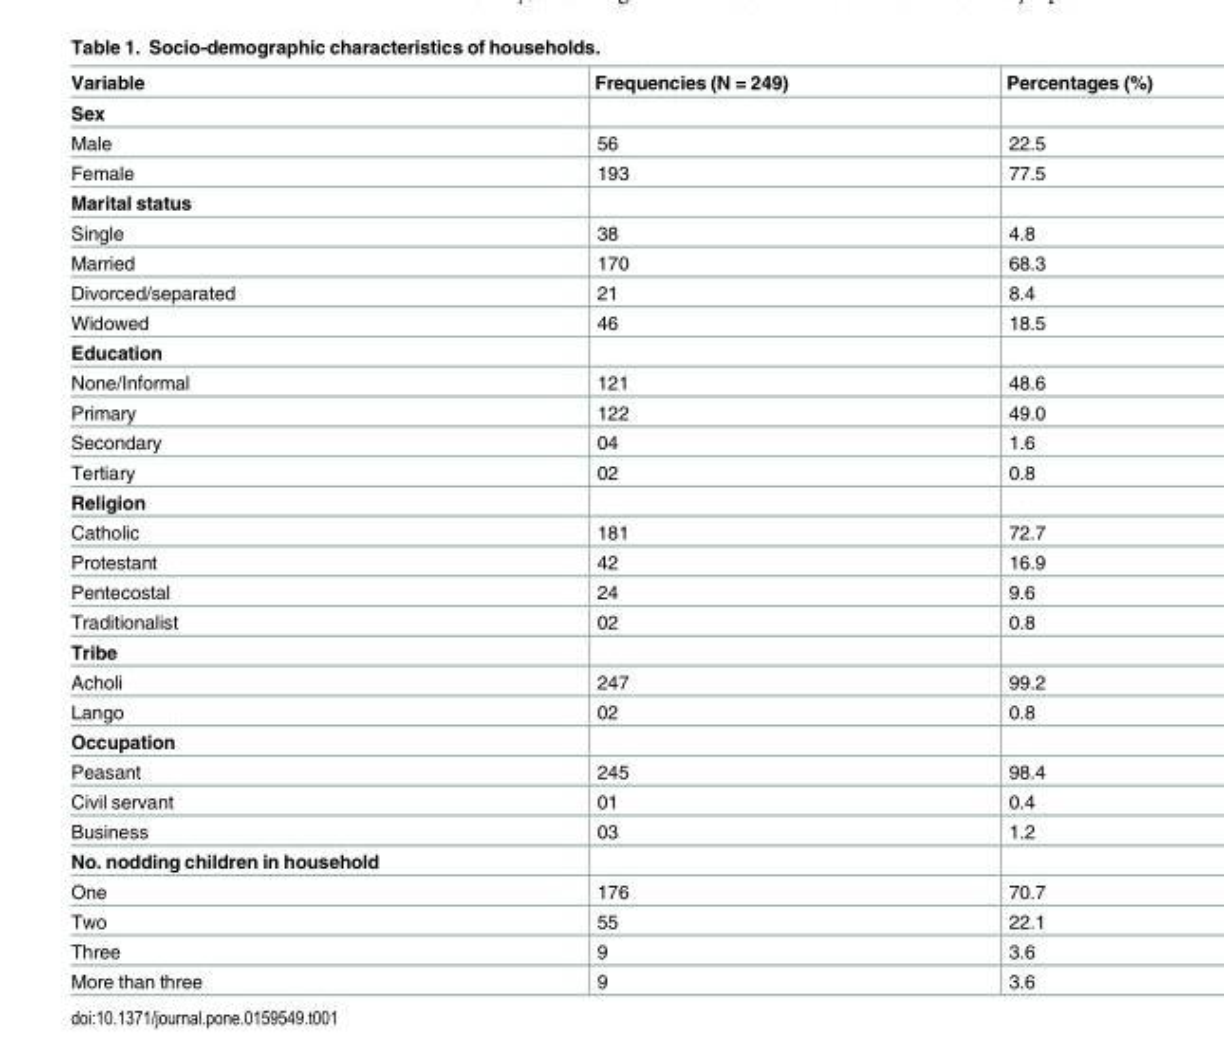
<table><thead><tr><td>Variable</td><td>Frequencies (N = 249)</td><td>Percentages (%)</td></tr></thead><tbody><tr><td colspan="3">Sex</td></tr><tr><td>Male</td><td>56</td><td>22.5</td></tr><tr><td>Female</td><td>193</td><td>77.5</td></tr><tr><td colspan="3">Marital status</td></tr><tr><td>Single</td><td>38</td><td>4.8</td></tr><tr><td>Married</td><td>170</td><td>68.3</td></tr><tr><td>Divorced/separated</td><td>21</td><td>8.4</td></tr><tr><td>Widowed</td><td>46</td><td>18.5</td></tr><tr><td colspan="3">Education</td></tr><tr><td>None/Informal</td><td>121</td><td>48.6</td></tr><tr><td>Primary</td><td>122</td><td>49.0</td></tr><tr><td>Secondary</td><td>04</td><td>1.6</td></tr><tr><td>Tertiary</td><td>02</td><td>0.8</td></tr><tr><td colspan="3">Religion</td></tr><tr><td>Catholic</td><td>181</td><td>72.7</td></tr><tr><td>Protestant</td><td>42</td><td>16.9</td></tr><tr><td>Pentecostal</td><td>24</td><td>9.6</td></tr><tr><td>Traditionalist</td><td>02</td><td>0.8</td></tr><tr><td colspan="3">Tribe</td></tr><tr><td>Acholi</td><td>247</td><td>99.2</td></tr><tr><td>Lango</td><td>02</td><td>0.8</td></tr><tr><td colspan="3">Occupation</td></tr><tr><td>Peasant</td><td>245</td><td>98.4</td></tr><tr><td>Civil servant</td><td>01</td><td>0.4</td></tr><tr><td>Business</td><td>03</td><td>1.2</td></tr><tr><td colspan="3">No. nodding children in household</td></tr><tr><td>One</td><td>176</td><td>70.7</td></tr><tr><td>Two</td><td>55</td><td>22.1</td></tr><tr><td>Three</td><td>9</td><td>3.6</td></tr><tr><td>More than three</td><td>9</td><td>3.6</td></tr></tbody></table>